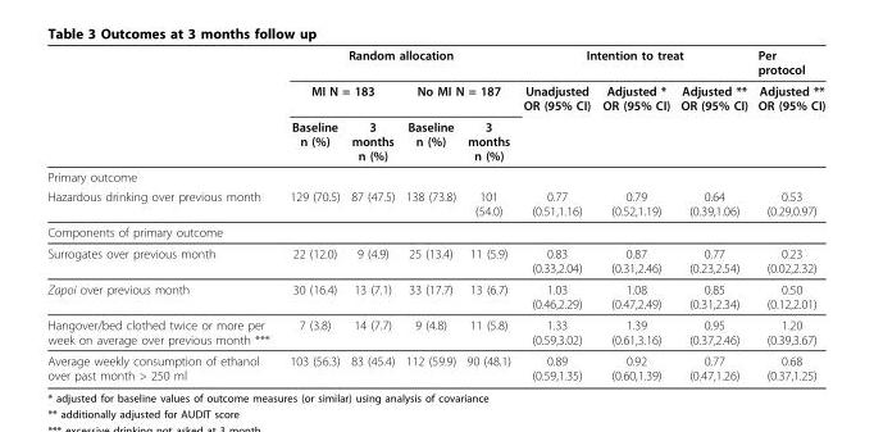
<table><thead><tr><td rowspan="3"></td><td colspan="4">Random allocation</td><td colspan="3">Intention to treat</td><td rowspan="3">Per protocol Adjusted ** OR (95% CI)</td></tr><tr><td colspan="2">MI N = 183</td><td colspan="2">No MI N = 187</td><td rowspan="2">Unadjusted OR (95% CI)</td><td rowspan="2">Adjusted * OR (95% CI)</td><td rowspan="2">Adjusted ** OR (95% CI)</td></tr><tr><td>Baseline n (%)</td><td>3 months n (%)</td><td>Baseline n (%)</td><td>3 months n (%)</td></tr></thead><tbody><tr><td colspan="9">Primary outcome</td></tr><tr><td>Hazardous drinking over previous month</td><td>129 (70.5)</td><td>87 (47.5)</td><td>138 (73.8)</td><td>101 (54.0)</td><td>0.77 (0.51,1.16)</td><td>0.79 (0.52,1.19)</td><td>0.64 (0.39,1.06)</td><td>0.53 (0.29,0.97)</td></tr><tr><td colspan="9">Components of primary outcome</td></tr><tr><td>Surrogates over previous month</td><td>22 (12.0)</td><td>9 (4.9)</td><td>25 (13.4)</td><td>11 (5.9)</td><td>0.83 (0.33,2.04)</td><td>0.87 (0.31,2.46)</td><td>0.77 (0.23,2.54)</td><td>0.23 (0.02,2.32)</td></tr><tr><td>Zapoi over previous month</td><td>30 (16.4)</td><td>13 (7.1)</td><td>33 (17.7)</td><td>13 (6.7)</td><td>1.03 (0.46,2.29)</td><td>1.08 (0.47,2.49)</td><td>0.85 (0.31,2.34)</td><td>0.50 (0.12,2.01)</td></tr><tr><td>Hangover/bed clothed twice or more per week on average over previous month ***</td><td>7 (3.8)</td><td>14 (7.7)</td><td>9 (4.8)</td><td>11 (5.8)</td><td>1.33 (0.59,3.02)</td><td>1.39 (0.61,3.16)</td><td>0.95 (0.37,2.46)</td><td>1.20 (0.39,3.67)</td></tr><tr><td>Average weekly consumption of ethanol over past month &gt; 250 ml</td><td>103 (56.3)</td><td>83 (45.4)</td><td>112 (59.9)</td><td>90 (48.1)</td><td>0.89 (0.59,1.35)</td><td>0.92 (0.60,1.39)</td><td>0.77 (0.47,1.26)</td><td>0.68 (0.37,1.25)</td></tr></tbody></table>